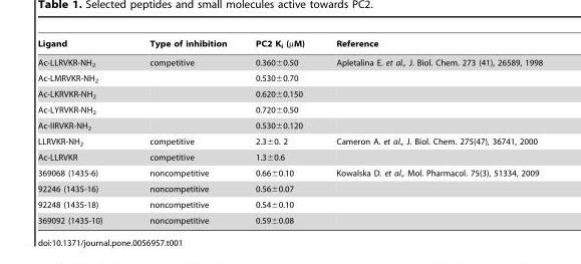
<table><thead><tr><td>Ligand</td><td>Type of inhibition</td><td>PC2 K<sub>i</sub> (µM)</td><td>Reference</td></tr></thead><tbody><tr><td>Ac-LLRVKR-NH<sub>2</sub></td><td>competitive</td><td>0.360±0.50</td><td>Apletalina E. et al., J. Biol. Chem. 273 (41), 26589, 1998</td></tr><tr><td>Ac-LMRVKR-NH<sub>2</sub></td><td></td><td>0.530±0.70</td><td></td></tr><tr><td>Ac-LKRVKR-NH<sub>2</sub></td><td></td><td>0.620±0.150</td><td></td></tr><tr><td>Ac-LYRVKR-NH<sub>2</sub></td><td></td><td>0.720±0.50</td><td></td></tr><tr><td>Ac-IIRVKR-NH<sub>2</sub></td><td></td><td>0.530±0.120</td><td></td></tr><tr><td>LLRVKR-NH<sub>2</sub></td><td>competitive</td><td>2.3±0. 2</td><td>Cameron A. et al., J. Biol. Chem. 275(47), 36741, 2000</td></tr><tr><td>Ac-LLRVKR</td><td>competitive</td><td>1.3±0.6</td><td></td></tr><tr><td>369068 (1435-6)</td><td>noncompetitive</td><td>0.66±0.10</td><td>Kowalska D. et al., Mol. Pharmacol. 75(3), 51334, 2009</td></tr><tr><td>92246 (1435-16)</td><td>noncompetitive</td><td>0.56±0.07</td><td></td></tr><tr><td>92248 (1435-18)</td><td>noncompetitive</td><td>0.54±0.10</td><td></td></tr><tr><td>369092 (1435-10)</td><td>noncompetitive</td><td>0.59±0.08</td><td></td></tr></tbody></table>